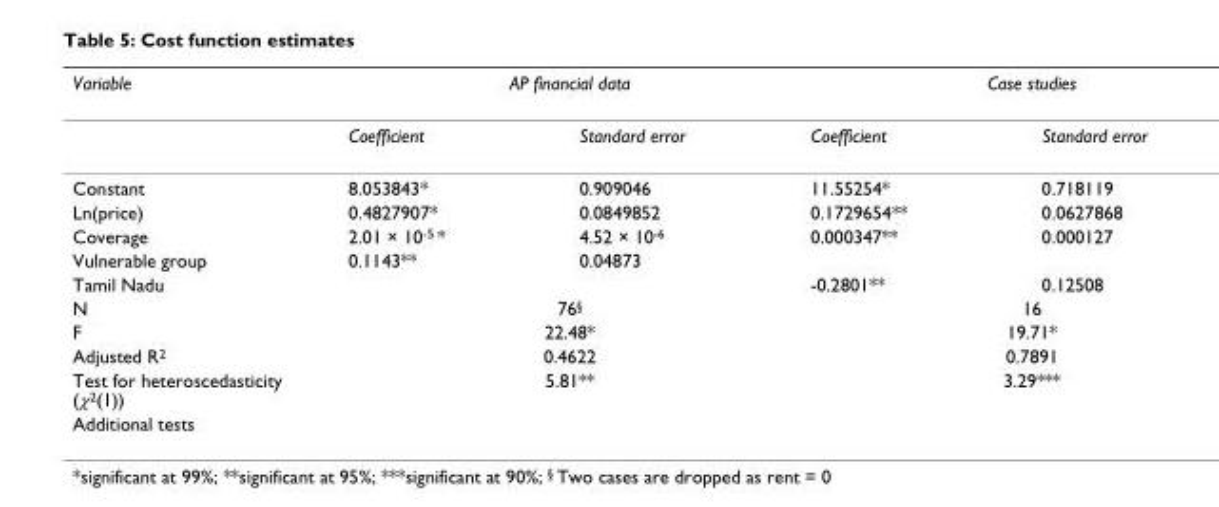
<table><thead><tr><td rowspan="2">Variable</td><td colspan="2">AP financial data</td><td colspan="2">Case studies</td></tr><tr><td>Coefficient</td><td>Standard error</td><td>Coefficient</td><td>Standard error</td></tr></thead><tbody><tr><td>Constant</td><td>8.053843*</td><td>0.909046</td><td>11.55254*</td><td>0.718119</td></tr><tr><td>Ln(price)</td><td>0.4827907*</td><td>0.0849852</td><td>0.1729654**</td><td>0.0627868</td></tr><tr><td>Coverage</td><td>2.01 × 10<sup>-5</sup> *</td><td>4.52 × 10<sup>-6</sup></td><td>0.000347**</td><td>0.000127</td></tr><tr><td>Vulnerable group</td><td>0.1143**</td><td>0.04873</td><td></td><td></td></tr><tr><td>Tamil Nadu</td><td></td><td></td><td>-0.2801**</td><td>0.12508</td></tr><tr><td>N</td><td colspan="2">76<sup>§</sup></td><td colspan="2">16</td></tr><tr><td>F</td><td colspan="2">22.48*</td><td colspan="2">19.71*</td></tr><tr><td>Adjusted R<sup>2</sup></td><td colspan="2">0.4622</td><td colspan="2">0.7891</td></tr><tr><td>Test for heteroscedasticity (χ<sup>2</sup>(1))</td><td colspan="2">5.81**</td><td colspan="2">3.29***</td></tr><tr><td>Additional tests</td><td></td><td></td><td></td><td></td></tr></tbody></table>